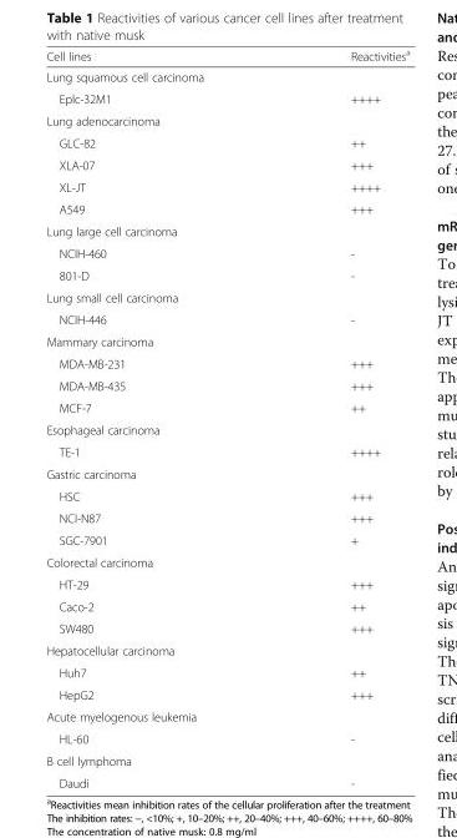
<table><thead><tr><td>Cell lines</td><td>Reactivities<sup>a</sup></td></tr></thead><tbody><tr><td colspan="2">Lung squamous cell carcinoma</td></tr><tr><td>Eplc-32M1</td><td>++++</td></tr><tr><td colspan="2">Lung adenocarcinoma</td></tr><tr><td>GLC-82</td><td>++</td></tr><tr><td>XLA-07</td><td>+++</td></tr><tr><td>XL-JT</td><td>++++</td></tr><tr><td>A549</td><td>+++</td></tr><tr><td colspan="2">Lung large cell carcinoma</td></tr><tr><td>NCIH-460</td><td>-</td></tr><tr><td>801-D</td><td>-</td></tr><tr><td colspan="2">Lung small cell carcinoma</td></tr><tr><td>NCIH-446</td><td>-</td></tr><tr><td colspan="2">Mammary carcinoma</td></tr><tr><td>MDA-MB-231</td><td>+++</td></tr><tr><td>MDA-MB-435</td><td>+++</td></tr><tr><td>MCF-7</td><td>++</td></tr><tr><td colspan="2">Esophageal carcinoma</td></tr><tr><td>TE-1</td><td>++++</td></tr><tr><td colspan="2">Gastric carcinoma</td></tr><tr><td>HSC</td><td>+++</td></tr><tr><td>NCI-N87</td><td>+++</td></tr><tr><td>SGC-7901</td><td>+</td></tr><tr><td colspan="2">Colorectal carcinoma</td></tr><tr><td>HT-29</td><td>+++</td></tr><tr><td>Caco-2</td><td>++</td></tr><tr><td>SW480</td><td>+++</td></tr><tr><td colspan="2">Hepatocellular carcinoma</td></tr><tr><td>Huh7</td><td>++</td></tr><tr><td>HepG2</td><td>+++</td></tr><tr><td colspan="2">Acute myelogenous leukemia</td></tr><tr><td>HL-60</td><td>-</td></tr><tr><td colspan="2">B cell lymphoma</td></tr><tr><td>Daudi</td><td>-</td></tr></tbody></table>